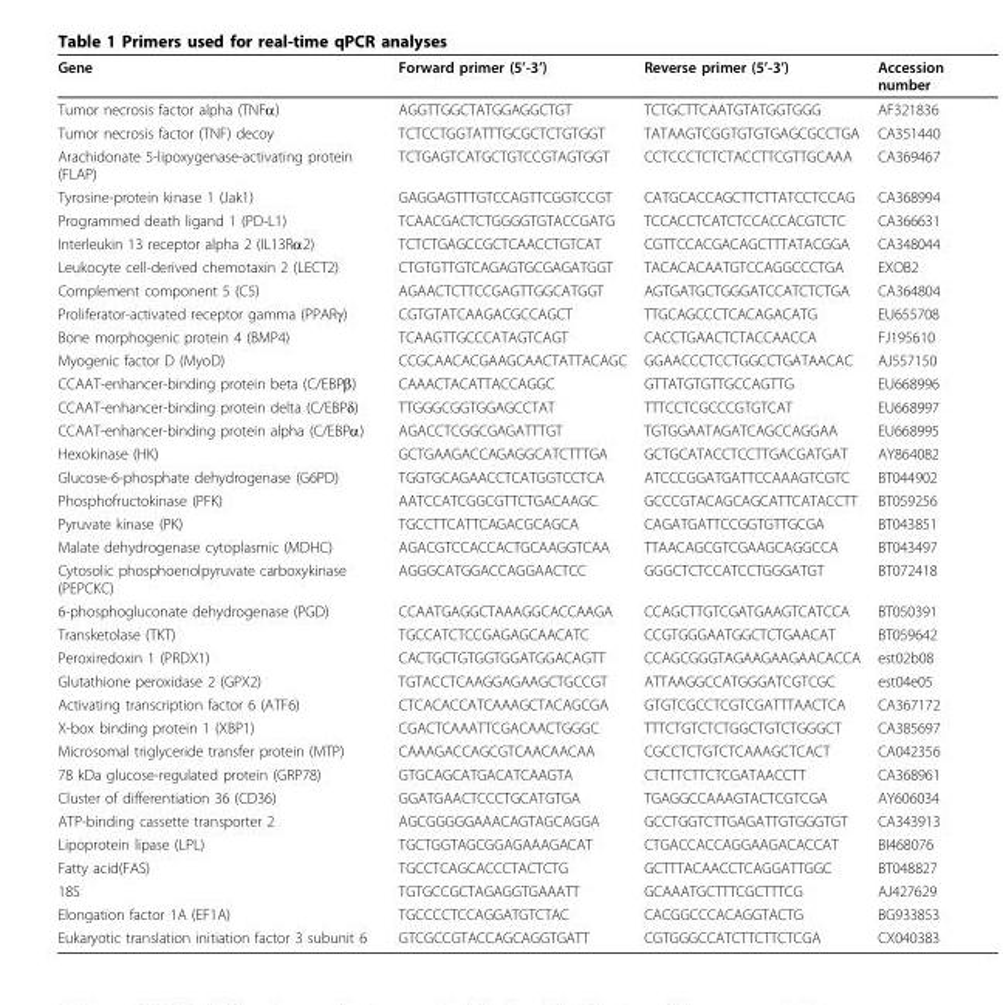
<table><thead><tr><td>Gene</td><td>Forward primer (5’-3’)</td><td>Reverse primer (5’-3’)</td><td>Accession number</td></tr></thead><tbody><tr><td>Tumor necrosis factor alpha (TNFα)</td><td>AGGTTGGCTATGGAGGCTGT</td><td>TCTGCTTCAATGTATGGTGGG</td><td>AF321836</td></tr><tr><td>Tumor necrosis factor (TNF) decoy</td><td>TCTCCTGGTATTTGCGCTCTGTGGT</td><td>TATAAGTCGGTGTGTGAGCGCCTGA</td><td>CA351440</td></tr><tr><td>Arachidonate 5-lipoxygenase-activating protein (FLAP)</td><td>TCTGAGTCATGCTGTCCGTAGTGGT</td><td>CCTCCCTCTCTACCTTCGTTGCAAA</td><td>CA369467</td></tr><tr><td>Tyrosine-protein kinase 1 (Jak1)</td><td>GAGGAGTTTGTCCAGTTCGGTCCGT</td><td>CATGCACCAGCTTCTTATCCTCCAG</td><td>CA368994</td></tr><tr><td>Programmed death ligand 1 (PD-L1)</td><td>TCAACGACTCTGGGGTGTACCGATG</td><td>TCCACCTCATCTCCACCACGTCTC</td><td>CA366631</td></tr><tr><td>Interleukin 13 receptor alpha 2 (IL13Rα2)</td><td>TCTCTGAGCCGCTCAACCTGTCAT</td><td>CGTTCCACGACAGCTTTATACGGA</td><td>CA348044</td></tr><tr><td>Leukocyte cell-derived chemotaxin 2 (LECT2)</td><td>CTGTGTTGTCAGAGTGCGAGATGGT</td><td>TACACACAATGTCCAGGCCCTGA</td><td>EXOB2</td></tr><tr><td>Complement component 5 (C5)</td><td>AGAACTCTTCCGAGTTGGCATGGT</td><td>AGTGATGCTGGGATCCATCTCTGA</td><td>CA364804</td></tr><tr><td>Proliferator-activated receptor gamma (PPARγ)</td><td>CGTGTATCAAGACGCCAGCT</td><td>TTGCAGCCCTCACAGACATG</td><td>EU655708</td></tr><tr><td>Bone morphogenic protein 4 (BMP4)</td><td>TCAAGTTGCCCATAGTCAGT</td><td>CACCTGAACTCTACCAACCA</td><td>FJ195610</td></tr><tr><td>Myogenic factor D (MyoD)</td><td>CCGCAACACGAAGCAACTATTACAGC</td><td>GGAACCCTCCTGGCCTGATAACAC</td><td>AJ557150</td></tr><tr><td>CCAAT-enhancer-binding protein beta (C/EBPβ)</td><td>CAAACTACATTACCAGGC</td><td>GTTATGTGTTGCCAGTTG</td><td>EU668996</td></tr><tr><td>CCAAT-enhancer-binding protein delta (C/EBPδ)</td><td>TTGGGCGGTGGAGCCTAT</td><td>TTTCCTCGCCCGTGTCAT</td><td>EU668997</td></tr><tr><td>CCAAT-enhancer-binding protein alpha (C/EBPα)</td><td>AGACCTCGGCGAGATTTGT</td><td>TGTGGAATAGATCAGCCAGGAA</td><td>EU668995</td></tr><tr><td>Hexokinase (HK)</td><td>GCTGAAGACCAGAGGCATCTTTGA</td><td>GCTGCATACCTCCTTGACGATGAT</td><td>AY864082</td></tr><tr><td>Glucose-6-phosphate dehydrogenase (G6PD)</td><td>TGGTGCAGAACCTCATGGTCCTCA</td><td>ATCCCGGATGATTCCAAAGTCGTC</td><td>BT044902</td></tr><tr><td>Phosphofructokinase (PFK)</td><td>AATCCATCGGCGTTCTGACAAGC</td><td>GCCCGTACAGCAGCATTCATACCTT</td><td>BT059256</td></tr><tr><td>Pyruvate kinase (PK)</td><td>TGCCTTCATTCAGACGCAGCA</td><td>CAGATGATTCCGGTGTTGCGA</td><td>BT043851</td></tr><tr><td>Malate dehydrogenase cytoplasmic (MDHC)</td><td>AGACGTCCACCACTGCAAGGTCAA</td><td>TTAACAGCGTCGAAGCAGGCCA</td><td>BT043497</td></tr><tr><td>Cytosolic phosphoenolpyruvate carboxykinase (PEPCKC)</td><td>AGGGCATGGACCAGGAACTCC</td><td>GGGCTCTCCATCCTGGGATGT</td><td>BT072418</td></tr><tr><td>6-phosphogluconate dehydrogenase (PGD)</td><td>CCAATGAGGCTAAAGGCACCAAGA</td><td>CCAGCTTGTCGATGAAGTCATCCA</td><td>BT050391</td></tr><tr><td>Transketolase (TKT)</td><td>TGCCATCTCCGAGAGCAACATC</td><td>CCGTGGGAATGGCTCTGAACAT</td><td>BT059642</td></tr><tr><td>Peroxiredoxin 1 (PRDX1)</td><td>CACTGCTGTGGTGGATGGACAGTT</td><td>CCAGCGGGTAGAAGAAGAACACCA</td><td>est02b08</td></tr><tr><td>Glutathione peroxidase 2 (GPX2)</td><td>TGTACCTCAAGGAGAAGCTGCCGT</td><td>ATTAAGGCCATGGGATCGTCGC</td><td>est04e05</td></tr><tr><td>Activating transcription factor 6 (ATF6)</td><td>CTCACACCATCAAAGCTACAGCGA</td><td>GTGTCGCCTCGTCGATTTAACTCA</td><td>CA367172</td></tr><tr><td>X-box binding protein 1 (XBP1)</td><td>CGACTCAAATTCGACAACTGGGC</td><td>TTTCTGTCTCTGGCTGTCTGGGCT</td><td>CA385697</td></tr><tr><td>Microsomal triglyceride transfer protein (MTP)</td><td>CAAAGACCAGCGTCAACAACAA</td><td>CGCCTCTGTCTCAAAGCTCACT</td><td>CA042356</td></tr><tr><td>78 kDa glucose-regulated protein (GRP78)</td><td>GTGCAGCATGACATCAAGTA</td><td>CTCTTCTTCTCGATAACCTT</td><td>CA368961</td></tr><tr><td>Cluster of differentiation 36 (CD36)</td><td>GGATGAACTCCCTGCATGTGA</td><td>TGAGGCCAAAGTACTCGTCGA</td><td>AY606034</td></tr><tr><td>ATP-binding cassette transporter 2</td><td>AGCGGGGGAAACAGTAGCAGGA</td><td>GCCTGGTCTTGAGATTGTGGGTGT</td><td>CA343913</td></tr><tr><td>Lipoprotein lipase (LPL)</td><td>TGCTGGTAGCGGAGAAAGACAT</td><td>CTGACCACCAGGAAGACACCAT</td><td>BI468076</td></tr><tr><td>Fatty acid(FAS)</td><td>TGCCTCAGCACCCTACTCTG</td><td>GCTTTACAACCTCAGGATTGGC</td><td>BT048827</td></tr><tr><td>18S</td><td>TGTGCCGCTAGAGGTGAAATT</td><td>GCAAATGCTTTCGCTTTCG</td><td>AJ427629</td></tr><tr><td>Elongation factor 1A (EF1A)</td><td>TGCCCCTCCAGGATGTCTAC</td><td>CACGGCCCACAGGTACTG</td><td>BG933853</td></tr><tr><td>Eukaryotic translation initiation factor 3 subunit 6</td><td>GTCGCCGTACCAGCAGGTGATT</td><td>CGTGGGCCATCTTCTTCTCGA</td><td>CX040383</td></tr></tbody></table>